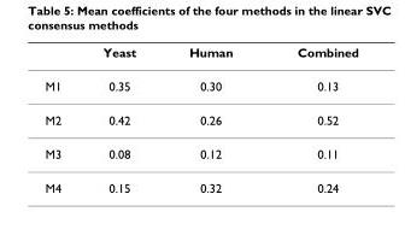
<table><thead><tr><td></td><td>Yeast</td><td>Human</td><td>Combined</td></tr></thead><tbody><tr><td>M1</td><td>0.35</td><td>0.30</td><td>0.13</td></tr><tr><td>M2</td><td>0.42</td><td>0.26</td><td>0.52</td></tr><tr><td>M3</td><td>0.08</td><td>0.12</td><td>0.11</td></tr><tr><td>M4</td><td>0.15</td><td>0.32</td><td>0.24</td></tr></tbody></table>